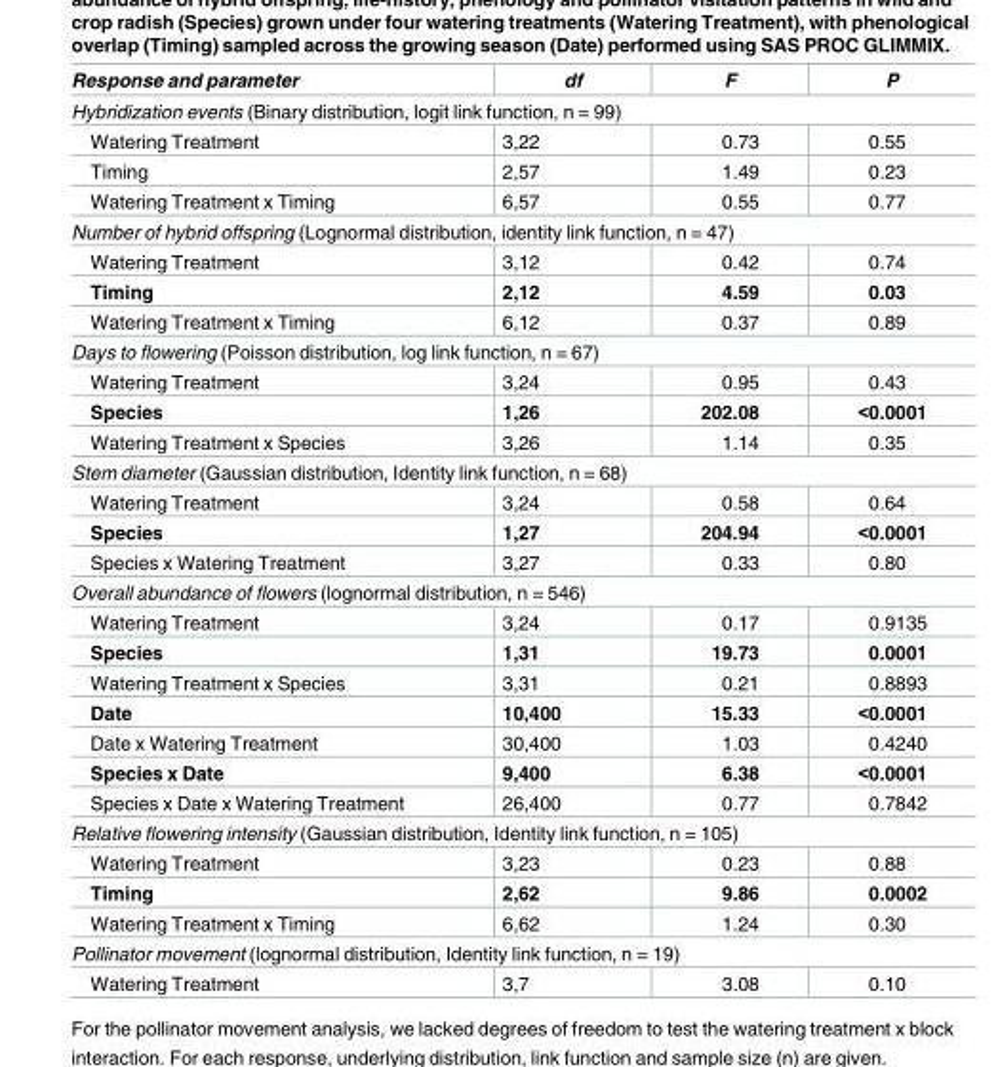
<table><thead><tr><td>Response and parameter</td><td>df</td><td>F</td><td>P</td></tr></thead><tbody><tr><td colspan="4">Hybridization events (Binary distribution, logit link function, n = 99)</td></tr><tr><td>Watering Treatment</td><td>3,22</td><td>0.73</td><td>0.55</td></tr><tr><td>Timing</td><td>2,57</td><td>1.49</td><td>0.23</td></tr><tr><td>Watering Treatment x Timing</td><td>6,57</td><td>0.55</td><td>0.77</td></tr><tr><td colspan="4">Number of hybrid offspring (Lognormal distribution, identity link function, n = 47)</td></tr><tr><td>Watering Treatment</td><td>3,12</td><td>0.42</td><td>0.74</td></tr><tr><td>Timing</td><td>2,12</td><td>4.59</td><td>0.03</td></tr><tr><td>Watering Treatment x Timing</td><td>6,12</td><td>0.37</td><td>0.89</td></tr><tr><td colspan="4">Days to flowering (Poisson distribution, log link function, n = 67)</td></tr><tr><td>Watering Treatment</td><td>3,24</td><td>0.95</td><td>0.43</td></tr><tr><td>Species</td><td>1,26</td><td>202.08</td><td>&lt;0.0001</td></tr><tr><td>Watering Treatment x Species</td><td>3,26</td><td>1.14</td><td>0.35</td></tr><tr><td colspan="4">Stem diameter (Gaussian distribution, Identity link function, n = 68)</td></tr><tr><td>Watering Treatment</td><td>3,24</td><td>0.58</td><td>0.64</td></tr><tr><td>Species</td><td>1,27</td><td>204.94</td><td>&lt;0.0001</td></tr><tr><td>Species x Watering Treatment</td><td>3,27</td><td>0.33</td><td>0.80</td></tr><tr><td colspan="4">Overall abundance of flowers (lognormal distribution, n = 546)</td></tr><tr><td>Watering Treatment</td><td>3,24</td><td>0.17</td><td>0.9135</td></tr><tr><td>Species</td><td>1,31</td><td>19.73</td><td>0.0001</td></tr><tr><td>Watering Treatment x Species</td><td>3,31</td><td>0.21</td><td>0.8893</td></tr><tr><td>Date</td><td>10,400</td><td>15.33</td><td>&lt;0.0001</td></tr><tr><td>Date x Watering Treatment</td><td>30,400</td><td>1.03</td><td>0.4240</td></tr><tr><td>Species x Date</td><td>9,400</td><td>6.38</td><td>&lt;0.0001</td></tr><tr><td>Species x Date x Watering Treatment</td><td>26,400</td><td>0.77</td><td>0.7842</td></tr><tr><td colspan="4">Relative flowering intensity (Gaussian distribution, Identity link function, n = 105)</td></tr><tr><td>Watering Treatment</td><td>3,23</td><td>0.23</td><td>0.88</td></tr><tr><td>Timing</td><td>2,62</td><td>9.86</td><td>0.0002</td></tr><tr><td>Watering Treatment x Timing</td><td>6,62</td><td>1.24</td><td>0.30</td></tr><tr><td colspan="4">Pollinator movement (lognormal distribution, Identity link function, n = 19)</td></tr><tr><td>Watering Treatment</td><td>3,7</td><td>3.08</td><td>0.10</td></tr></tbody></table>